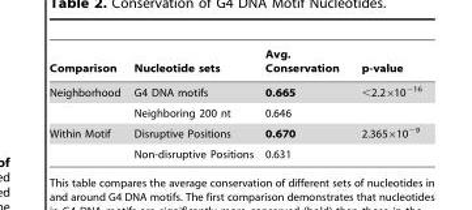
<table><thead><tr><td>Comparison</td><td>Nucleotide sets</td><td>Avg. Conservation</td><td>p-value</td></tr></thead><tbody><tr><td rowspan="2">Neighborhood</td><td>G4 DNA motifs</td><td>0.665</td><td>&lt;2.2×10<sup>−16</sup></td></tr><tr><td>Neighboring 200 nt</td><td>0.646</td><td></td></tr><tr><td rowspan="2">Within Motif</td><td>Disruptive Positions</td><td>0.670</td><td>2.365×10<sup>−9</sup></td></tr><tr><td>Non-disruptive Positions</td><td>0.631</td><td></td></tr></tbody></table>